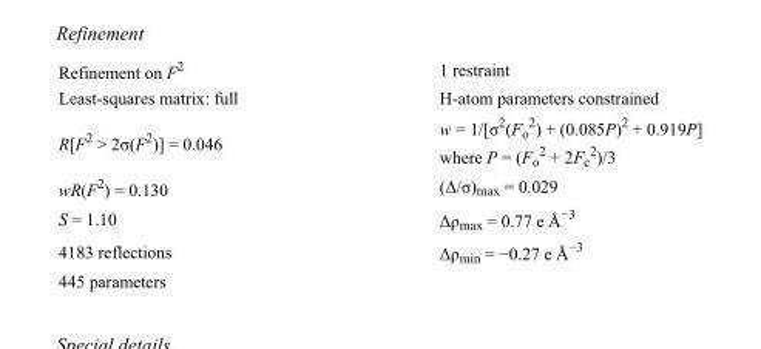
<table><tbody><tr><td>Refinement on F<sup>2</sup></td><td>1 restraint</td></tr><tr><td>Least-squares matrix: full</td><td>H-atom parameters constrained</td></tr><tr><td>R[F<sup>2</sup> &gt; 2σ(F<sup>2</sup>)] = 0.046</td><td>w = 1/[σ<sup>2</sup>(F<sub>o</sub> <sup>2</sup>) + (0.085P)<sup>2</sup> + 0.919P] where P = (F<sub>o</sub> <sup>2</sup> + 2F<sub>c</sub> <sup>2</sup>)/3</td></tr><tr><td>wR(F<sup>2</sup>) = 0.130</td><td>(Δ/σ)<sub>max</sub> = 0.029</td></tr><tr><td>S = 1.10</td><td>Δρ<sub>max</sub> = 0.77 e Å<sup>−3</sup></td></tr><tr><td>4183 reflections</td><td>Δρ<sub>min</sub> = −0.27 e Å<sup>−3</sup></td></tr><tr><td>445 parameters</td><td></td></tr></tbody></table>